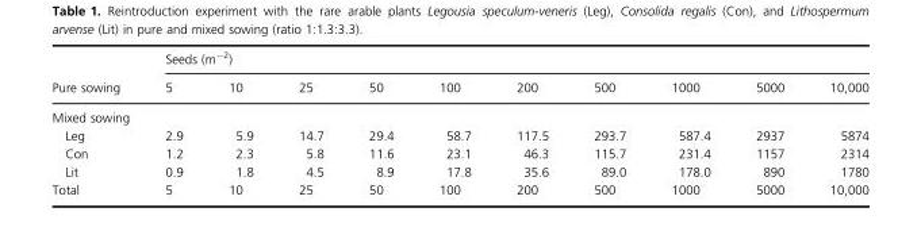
<table><thead><tr><td rowspan="2">Pure sowing</td><td colspan="10">Seeds (m<sup>−2</sup>)</td></tr><tr><td>5</td><td>10</td><td>25</td><td>50</td><td>100</td><td>200</td><td>500</td><td>1000</td><td>5000</td><td>10,000</td></tr></thead><tbody><tr><td colspan="11">Mixed sowing</td></tr><tr><td>Leg</td><td>2.9</td><td>5.9</td><td>14.7</td><td>29.4</td><td>58.7</td><td>117.5</td><td>293.7</td><td>587.4</td><td>2937</td><td>5874</td></tr><tr><td>Con</td><td>1.2</td><td>2.3</td><td>5.8</td><td>11.6</td><td>23.1</td><td>46.3</td><td>115.7</td><td>231.4</td><td>1157</td><td>2314</td></tr><tr><td>Lit</td><td>0.9</td><td>1.8</td><td>4.5</td><td>8.9</td><td>17.8</td><td>35.6</td><td>89.0</td><td>178.0</td><td>890</td><td>1780</td></tr><tr><td>Total</td><td>5</td><td>10</td><td>25</td><td>50</td><td>100</td><td>200</td><td>500</td><td>1000</td><td>5000</td><td>10,000</td></tr></tbody></table>